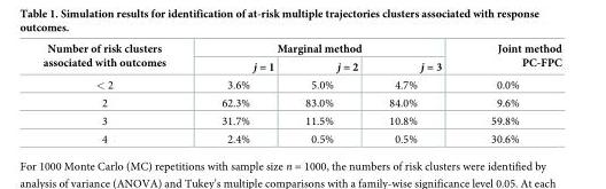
<table><thead><tr><td rowspan="2">Number of risk clusters associated with outcomes</td><td colspan="3">Marginal method</td><td rowspan="2">Joint method PC-FPC</td></tr><tr><td>j = 1</td><td>j = 2</td><td>j = 3</td></tr></thead><tbody><tr><td>&lt; 2</td><td>3.6%</td><td>5.0%</td><td>4.7%</td><td>0.0%</td></tr><tr><td>2</td><td>62.3%</td><td>83.0%</td><td>84.0%</td><td>9.6%</td></tr><tr><td>3</td><td>31.7%</td><td>11.5%</td><td>10.8%</td><td>59.8%</td></tr><tr><td>4</td><td>2.4%</td><td>0.5%</td><td>0.5%</td><td>30.6%</td></tr></tbody></table>